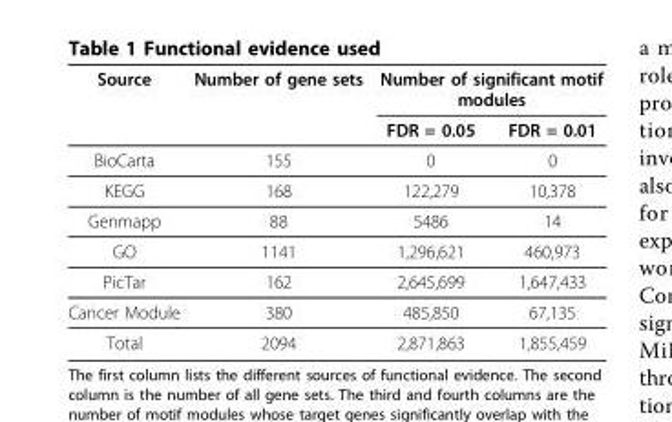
<table><thead><tr><td rowspan="2">Source</td><td rowspan="2">Number of gene sets</td><td colspan="2">Number of significant motif modules</td></tr><tr><td>FDR = 0.05</td><td>FDR = 0.01</td></tr></thead><tbody><tr><td>BioCarta</td><td>155</td><td>0</td><td>0</td></tr><tr><td>KEGG</td><td>168</td><td>122,279</td><td>10,378</td></tr><tr><td>Genmapp</td><td>88</td><td>5486</td><td>14</td></tr><tr><td>GO</td><td>1141</td><td>1,296,621</td><td>460,973</td></tr><tr><td>PicTar</td><td>162</td><td>2,645,699</td><td>1,647,433</td></tr><tr><td>Cancer Module</td><td>380</td><td>485,850</td><td>67,135</td></tr><tr><td>Total</td><td>2094</td><td>2,871,863</td><td>1,855,459</td></tr></tbody></table>